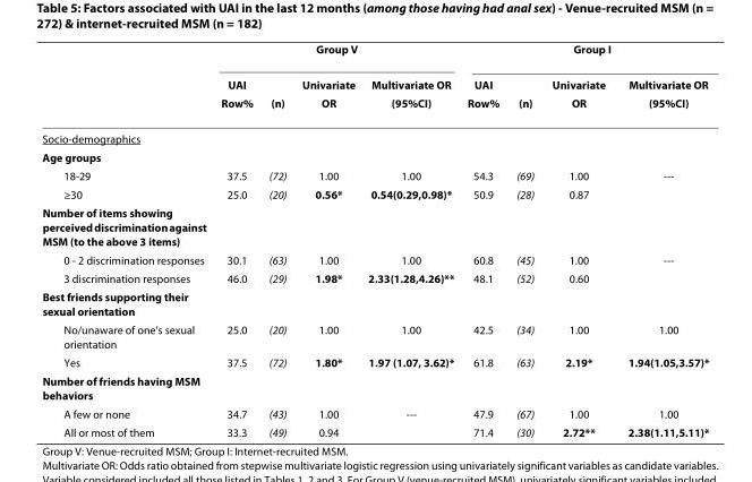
<table><thead><tr><td rowspan="3"></td><td colspan="4">Group V</td><td colspan="4">Group I</td></tr><tr><td rowspan="2">UAI Row%</td><td rowspan="2">(n)</td><td rowspan="2">Univariate OR</td><td rowspan="2">Multivariate OR (95%CI)</td><td rowspan="2">UAI Row%</td><td rowspan="2">(n)</td><td rowspan="2">Univariate OR</td><td rowspan="2">Multivariate OR (95%CI)</td></tr><tr></tr></thead><tbody><tr><td colspan="9">Socio-demographics</td></tr><tr><td colspan="9">Age groups</td></tr><tr><td>18-29</td><td>37.5</td><td>(72)</td><td>1.00</td><td>1.00</td><td>54.3</td><td>(69)</td><td>1.00</td><td>---</td></tr><tr><td>≥30</td><td>25.0</td><td>(20)</td><td>0.56*</td><td>0.54(0.29,0.98)*</td><td>50.9</td><td>(28)</td><td>0.87</td><td></td></tr><tr><td colspan="9">Number of items showing perceived discrimination against MSM (to the above 3 items)</td></tr><tr><td>0 - 2 discrimination responses</td><td>30.1</td><td>(63)</td><td>1.00</td><td>1.00</td><td>60.8</td><td>(45)</td><td>1.00</td><td>---</td></tr><tr><td>3 discrimination responses</td><td>46.0</td><td>(29)</td><td>1.98*</td><td>2.33(1.28,4.26)**</td><td>48.1</td><td>(52)</td><td>0.60</td><td></td></tr><tr><td colspan="9">Best friends supporting their sexual orientation</td></tr><tr><td>No/unaware of one&#x27;s sexual orientation</td><td>25.0</td><td>(20)</td><td>1.00</td><td>1.00</td><td>42.5</td><td>(34)</td><td>1.00</td><td>1.00</td></tr><tr><td>Yes</td><td>37.5</td><td>(72)</td><td>1.80*</td><td>1.97 (1.07, 3.62)*</td><td>61.8</td><td>(63)</td><td>2.19*</td><td>1.94(1.05,3.57)*</td></tr><tr><td colspan="9">Number of friends having MSM behaviors</td></tr><tr><td>A few or none</td><td>34.7</td><td>(43)</td><td>1.00</td><td>---</td><td>47.9</td><td>(67)</td><td>1.00</td><td>1.00</td></tr><tr><td>All or most of them</td><td>33.3</td><td>(49)</td><td>0.94</td><td></td><td>71.4</td><td>(30)</td><td>2.72**</td><td>2.38(1.11,5.11)*</td></tr></tbody></table>